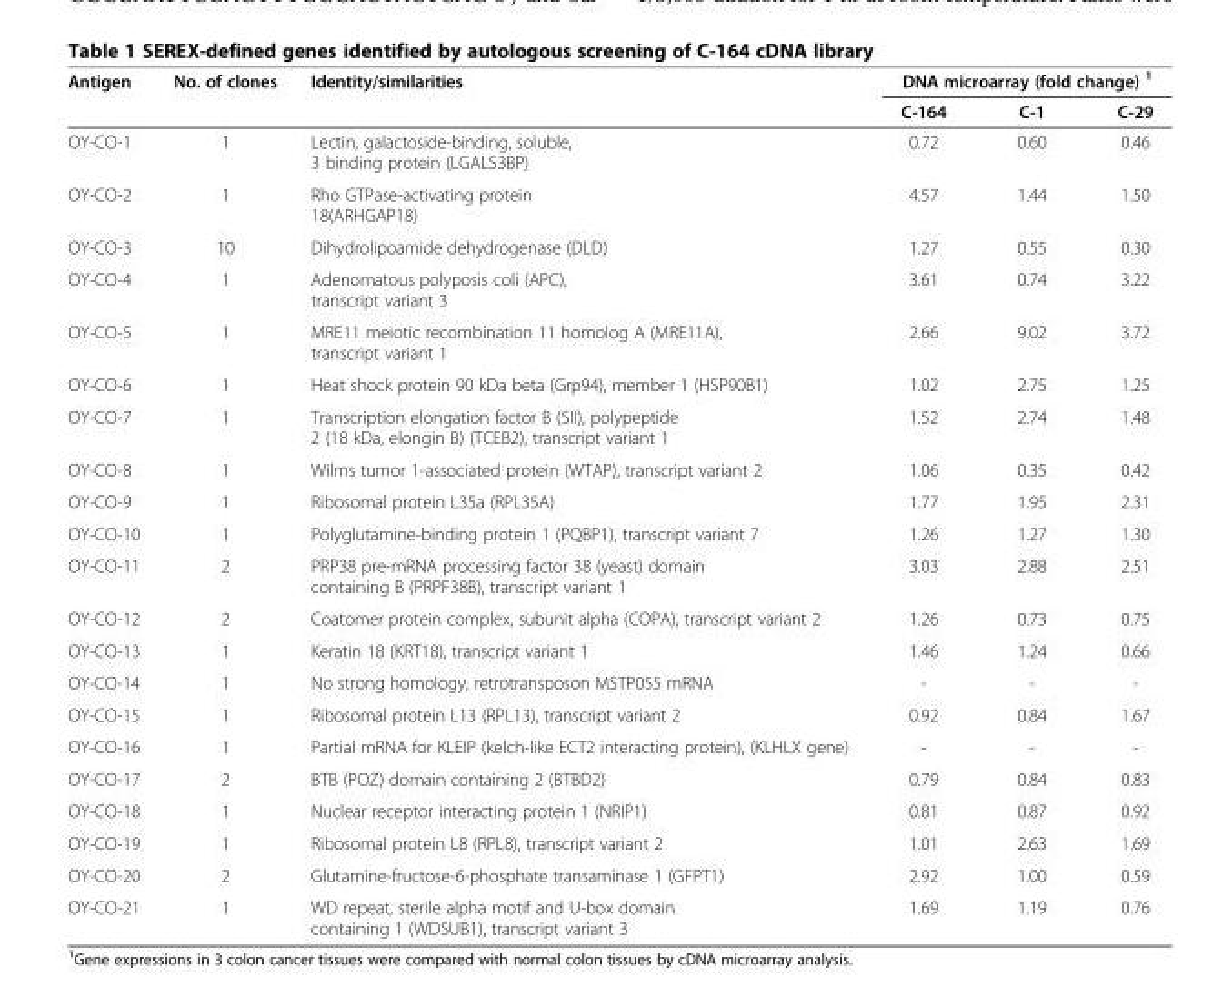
<table><thead><tr><td rowspan="2">Antigen</td><td rowspan="2">No. of clones</td><td rowspan="2">Identity/similarities</td><td colspan="3">DNA microarray (fold change) <sup>1</sup></td></tr><tr><td>C-164</td><td>C-1</td><td>C-29</td></tr></thead><tbody><tr><td>OY-CO-1</td><td>1</td><td>Lectin, galactoside-binding, soluble, 3 binding protein (LGALS3BP)</td><td>0.72</td><td>0.60</td><td>0.46</td></tr><tr><td>OY-CO-2</td><td>1</td><td>Rho GTPase-activating protein 18(ARHGAP18)</td><td>4.57</td><td>1.44</td><td>1.50</td></tr><tr><td>OY-CO-3</td><td>10</td><td>Dihydrolipoamide dehydrogenase (DLD)</td><td>1.27</td><td>0.55</td><td>0.30</td></tr><tr><td>OY-CO-4</td><td>1</td><td>Adenomatous polyposis coli (APC), transcript variant 3</td><td>3.61</td><td>0.74</td><td>3.22</td></tr><tr><td>OY-CO-5</td><td>1</td><td>MRE11 meiotic recombination 11 homolog A (MRE11A), transcript variant 1</td><td>2.66</td><td>9.02</td><td>3.72</td></tr><tr><td>OY-CO-6</td><td>1</td><td>Heat shock protein 90 kDa beta (Grp94), member 1 (HSP90B1)</td><td>1.02</td><td>2.75</td><td>1.25</td></tr><tr><td>OY-CO-7</td><td>1</td><td>Transcription elongation factor B (SII), polypeptide 2 (18 kDa, elongin B) (TCEB2), transcript variant 1</td><td>1.52</td><td>2.74</td><td>1.48</td></tr><tr><td>OY-CO-8</td><td>1</td><td>Wilms tumor 1-associated protein (WTAP), transcript variant 2</td><td>1.06</td><td>0.35</td><td>0.42</td></tr><tr><td>OY-CO-9</td><td>1</td><td>Ribosomal protein L35a (RPL35A)</td><td>1.77</td><td>1.95</td><td>2.31</td></tr><tr><td>OY-CO-10</td><td>1</td><td>Polyglutamine-binding protein 1 (PQBP1), transcript variant 7</td><td>1.26</td><td>1.27</td><td>1.30</td></tr><tr><td>OY-CO-11</td><td>2</td><td>PRP38 pre-mRNA processing factor 38 (yeast) domain containing B (PRPF38B), transcript variant 1</td><td>3.03</td><td>2.88</td><td>2.51</td></tr><tr><td>OY-CO-12</td><td>2</td><td>Coatomer protein complex, subunit alpha (COPA), transcript variant 2</td><td>1.26</td><td>0.73</td><td>0.75</td></tr><tr><td>OY-CO-13</td><td>1</td><td>Keratin 18 (KRT18), transcript variant 1</td><td>1.46</td><td>1.24</td><td>0.66</td></tr><tr><td>OY-CO-14</td><td>1</td><td>No strong homology, retrotransposon MSTP055 mRNA</td><td>-</td><td>-</td><td>-</td></tr><tr><td>OY-CO-15</td><td>1</td><td>Ribosomal protein L13 (RPL13), transcript variant 2</td><td>0.92</td><td>0.84</td><td>1.67</td></tr><tr><td>OY-CO-16</td><td>1</td><td>Partial mRNA for KLEIP (kelch-like ECT2 interacting protein), (KLHLX gene)</td><td>-</td><td>-</td><td>-</td></tr><tr><td>OY-CO-17</td><td>2</td><td>BTB (POZ) domain containing 2 (BTBD2)</td><td>0.79</td><td>0.84</td><td>0.83</td></tr><tr><td>OY-CO-18</td><td>1</td><td>Nuclear receptor interacting protein 1 (NRIP1)</td><td>0.81</td><td>0.87</td><td>0.92</td></tr><tr><td>OY-CO-19</td><td>1</td><td>Ribosomal protein L8 (RPL8), transcript variant 2</td><td>1.01</td><td>2.63</td><td>1.69</td></tr><tr><td>OY-CO-20</td><td>2</td><td>Glutamine-fructose-6-phosphate transaminase 1 (GFPT1)</td><td>2.92</td><td>1.00</td><td>0.59</td></tr><tr><td>OY-CO-21</td><td>1</td><td>WD repeat, sterile alpha motif and U-box domain containing 1 (WDSUB1), transcript variant 3</td><td>1.69</td><td>1.19</td><td>0.76</td></tr></tbody></table>